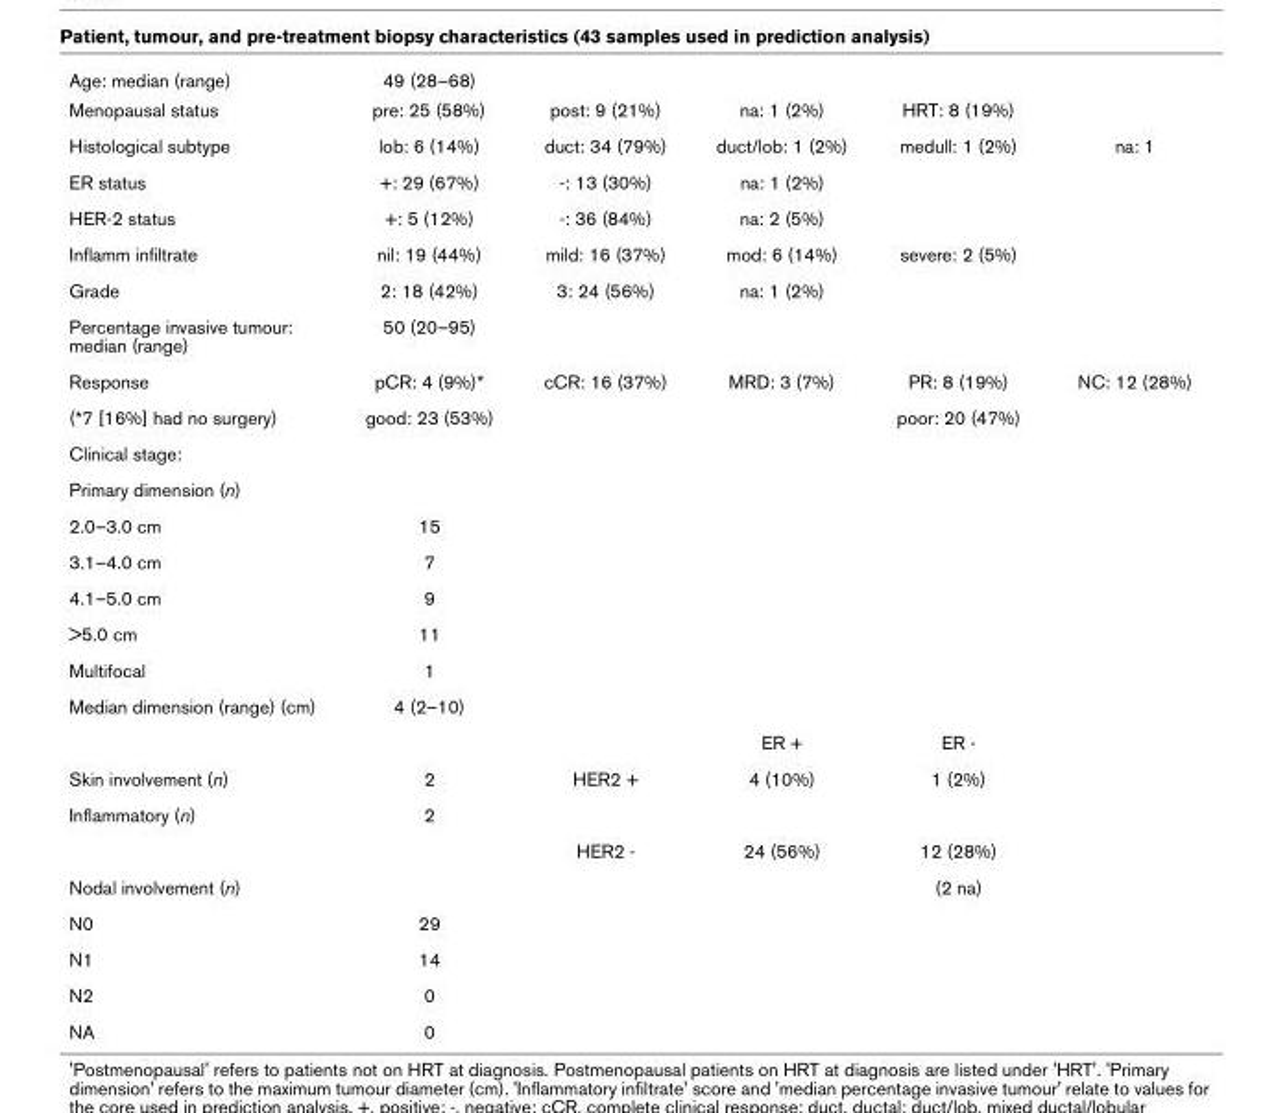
<table><tbody><tr><td>Age: median (range)</td><td>49 (28–68)</td><td></td><td></td><td></td><td></td></tr><tr><td>Menopausal status</td><td>pre: 25 (58%)</td><td>post: 9 (21%)</td><td>na: 1 (2%)</td><td>HRT: 8 (19%)</td><td></td></tr><tr><td>Histological subtype</td><td>lob: 6 (14%)</td><td>duct: 34 (79%)</td><td>duct/lob: 1 (2%)</td><td>medull: 1 (2%)</td><td>na: 1</td></tr><tr><td>ER status</td><td>+: 29 (67%)</td><td>-: 13 (30%)</td><td>na: 1 (2%)</td><td></td><td></td></tr><tr><td>HER-2 status</td><td>+: 5 (12%)</td><td>-: 36 (84%)</td><td>na: 2 (5%)</td><td></td><td></td></tr><tr><td>Inflamm infiltrate</td><td>nil: 19 (44%)</td><td>mild: 16 (37%)</td><td>mod: 6 (14%)</td><td>severe: 2 (5%)</td><td></td></tr><tr><td>Grade</td><td>2: 18 (42%)</td><td>3: 24 (56%)</td><td>na: 1 (2%)</td><td></td><td></td></tr><tr><td>Percentage invasive tumour: median (range)</td><td>50 (20–95)</td><td></td><td></td><td></td><td></td></tr><tr><td>Response</td><td>pCR: 4 (9%)*</td><td>cCR: 16 (37%)</td><td>MRD: 3 (7%)</td><td>PR: 8 (19%)</td><td>NC: 12 (28%)</td></tr><tr><td>(*7 [16%] had no surgery)</td><td>good: 23 (53%)</td><td></td><td></td><td>poor: 20 (47%)</td><td></td></tr><tr><td colspan="6">Clinical stage:</td></tr><tr><td colspan="6">Primary dimension (n)</td></tr><tr><td>2.0–3.0 cm</td><td>15</td><td></td><td></td><td></td><td></td></tr><tr><td>3.1–4.0 cm</td><td>7</td><td></td><td></td><td></td><td></td></tr><tr><td>4.1–5.0 cm</td><td>9</td><td></td><td></td><td></td><td></td></tr><tr><td>&gt;5.0 cm</td><td>11</td><td></td><td></td><td></td><td></td></tr><tr><td>Multifocal</td><td>1</td><td></td><td></td><td></td><td></td></tr><tr><td rowspan="2">Median dimension (range) (cm)</td><td>4 (2–10)</td><td></td><td></td><td></td><td></td></tr><tr><td></td><td></td><td>ER +</td><td>ER -</td><td></td></tr><tr><td>Skin involvement (n)</td><td>2</td><td>HER2 +</td><td>4 (10%)</td><td>1 (2%)</td><td></td></tr><tr><td rowspan="2">Inflammatory (n)</td><td>2</td><td></td><td></td><td></td><td></td></tr><tr><td></td><td>HER2 -</td><td>24 (56%)</td><td>12 (28%)</td><td></td></tr><tr><td>Nodal involvement (n)</td><td></td><td></td><td></td><td>(2 na)</td><td></td></tr><tr><td>N0</td><td>29</td><td></td><td></td><td></td><td></td></tr><tr><td>N1</td><td>14</td><td></td><td></td><td></td><td></td></tr><tr><td>N2</td><td>0</td><td></td><td></td><td></td><td></td></tr><tr><td>NA</td><td>0</td><td></td><td></td><td></td><td></td></tr></tbody></table>